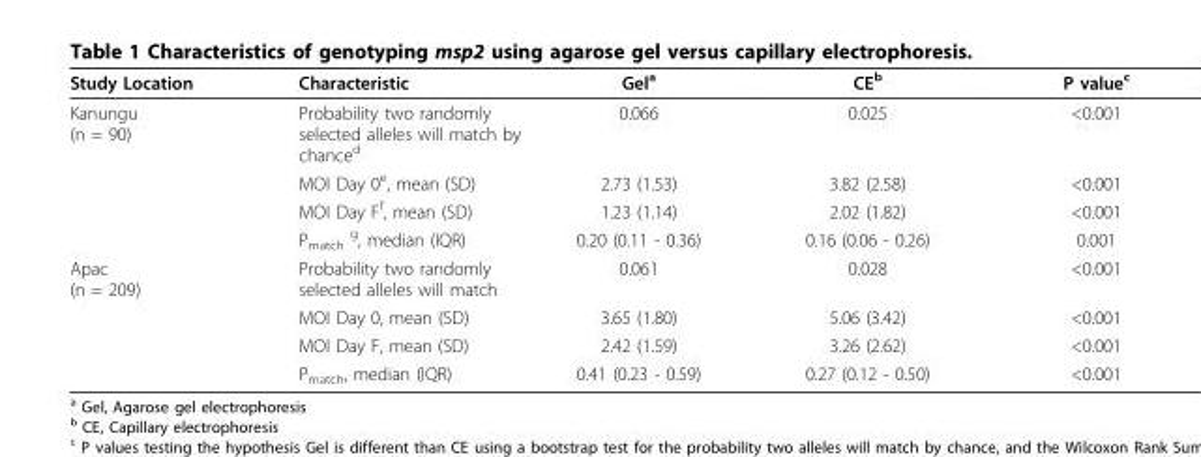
<table><thead><tr><td>Study Location</td><td>Characteristic</td><td>Gel<sup>a</sup></td><td>CE<sup>b</sup></td><td>P value<sup>c</sup></td></tr></thead><tbody><tr><td rowspan="4">Kanungu (n = 90)</td><td>Probability two randomly selected alleles will match by chance<sup>d</sup></td><td>0.066</td><td>0.025</td><td>&lt;0.001</td></tr><tr><td>MOI Day 0<sup>e</sup>, mean (SD)</td><td>2.73 (1.53)</td><td>3.82 (2.58)</td><td>&lt;0.001</td></tr><tr><td>MOI Day F<sup>f</sup>, mean (SD)</td><td>1.23 (1.14)</td><td>2.02 (1.82)</td><td>&lt;0.001</td></tr><tr><td>P<sub>match</sub> <sup>g</sup>, median (IQR)</td><td>0.20 (0.11 - 0.36)</td><td>0.16 (0.06 - 0.26)</td><td>0.001</td></tr><tr><td rowspan="4">Apac (n = 209)</td><td>Probability two randomly selected alleles will match</td><td>0.061</td><td>0.028</td><td>&lt;0.001</td></tr><tr><td>MOI Day 0, mean (SD)</td><td>3.65 (1.80)</td><td>5.06 (3.42)</td><td>&lt;0.001</td></tr><tr><td>MOI Day F, mean (SD)</td><td>2.42 (1.59)</td><td>3.26 (2.62)</td><td>&lt;0.001</td></tr><tr><td>P<sub>match</sub>, median (IQR)</td><td>0.41 (0.23 - 0.59)</td><td>0.27 (0.12 - 0.50)</td><td>&lt;0.001</td></tr></tbody></table>